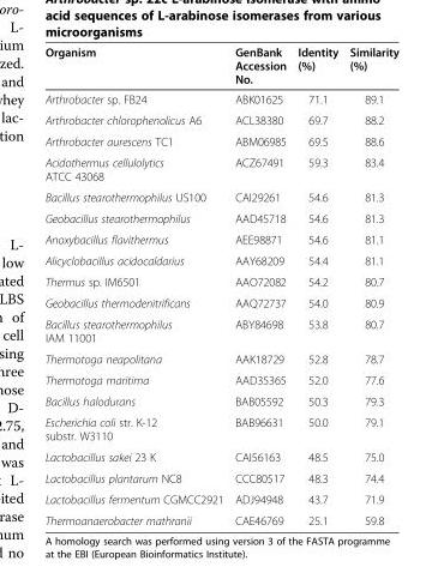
<table><thead><tr><td>Organism</td><td>GenBank Accession No.</td><td>Identity (%)</td><td>Similarity (%)</td></tr></thead><tbody><tr><td>Arthrobacter sp. FB24</td><td>ABK01625</td><td>71.1</td><td>89.1</td></tr><tr><td>Arthrobacter chlorophenolicus A6</td><td>ACL38380</td><td>69.7</td><td>88.2</td></tr><tr><td>Arthrobacter aurescens TC1</td><td>ABM06985</td><td>69.5</td><td>88.6</td></tr><tr><td>Acidothermus cellulolytics ATCC 43068</td><td>ACZ67491</td><td>59.3</td><td>83.4</td></tr><tr><td>Bacillus stearothermophilus US100</td><td>CAI29261</td><td>54.6</td><td>81.3</td></tr><tr><td>Geobacillus stearothermophilus</td><td>AAD45718</td><td>54.6</td><td>81.3</td></tr><tr><td>Anoxybacillus flavithermus</td><td>AEE98871</td><td>54.6</td><td>81.1</td></tr><tr><td>Alicyclobacillus acidocaldarius</td><td>AAY68209</td><td>54.4</td><td>81.1</td></tr><tr><td>Thermus sp. IM6501</td><td>AAO72082</td><td>54.2</td><td>80.7</td></tr><tr><td>Geobacillus thermodenitrificans</td><td>AAQ72737</td><td>54.0</td><td>80.9</td></tr><tr><td>Bacillus stearothermophilus IAM 11001</td><td>ABY84698</td><td>53.8</td><td>80.7</td></tr><tr><td>Thermotoga neapolitana</td><td>AAK18729</td><td>52.8</td><td>78.7</td></tr><tr><td>Thermotoga maritima</td><td>AAD35365</td><td>52.0</td><td>77.6</td></tr><tr><td>Bacillus halodurans</td><td>BAB05592</td><td>50.3</td><td>79.3</td></tr><tr><td>Escherichia coli str. K-12 substr. W3110</td><td>BAB96631</td><td>50.0</td><td>79.1</td></tr><tr><td>Lactobacillus sakei 23 K</td><td>CAI56163</td><td>48.5</td><td>75.0</td></tr><tr><td>Lactobacillus plantarum NC8</td><td>CCC80517</td><td>48.3</td><td>74.4</td></tr><tr><td>Lactobacillus fermentum CGMCC2921</td><td>ADJ94948</td><td>43.7</td><td>71.9</td></tr><tr><td>Thermoanaerobacter mathranii</td><td>CAE46769</td><td>25.1</td><td>59.8</td></tr></tbody></table>